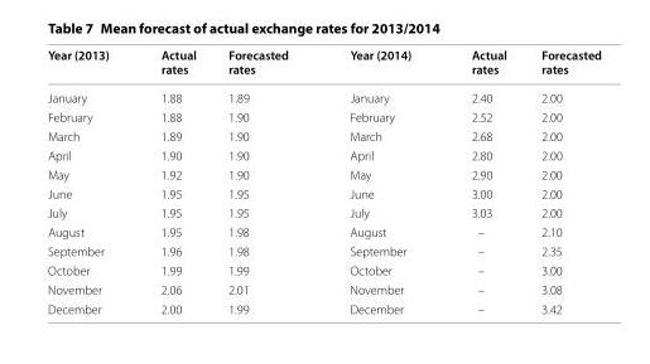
<table><thead><tr><td>Year (2013)</td><td>Actual rates</td><td>Forecasted rates</td><td>Year (2014)</td><td>Actual rates</td><td>Forecasted rates</td></tr></thead><tbody><tr><td>January</td><td>1.88</td><td>1.89</td><td>January</td><td>2.40</td><td>2.00</td></tr><tr><td>February</td><td>1.88</td><td>1.90</td><td>February</td><td>2.52</td><td>2.00</td></tr><tr><td>March</td><td>1.89</td><td>1.90</td><td>March</td><td>2.68</td><td>2.00</td></tr><tr><td>April</td><td>1.90</td><td>1.90</td><td>April</td><td>2.80</td><td>2.00</td></tr><tr><td>May</td><td>1.92</td><td>1.90</td><td>May</td><td>2.90</td><td>2.00</td></tr><tr><td>June</td><td>1.95</td><td>1.95</td><td>June</td><td>3.00</td><td>2.00</td></tr><tr><td>July</td><td>1.95</td><td>1.95</td><td>July</td><td>3.03</td><td>2.00</td></tr><tr><td>August</td><td>1.95</td><td>1.98</td><td>August</td><td>–</td><td>2.10</td></tr><tr><td>September</td><td>1.96</td><td>1.98</td><td>September</td><td>–</td><td>2.35</td></tr><tr><td>October</td><td>1.99</td><td>1.99</td><td>October</td><td>–</td><td>3.00</td></tr><tr><td>November</td><td>2.06</td><td>2.01</td><td>November</td><td>–</td><td>3.08</td></tr><tr><td>December</td><td>2.00</td><td>1.99</td><td>December</td><td>–</td><td>3.42</td></tr></tbody></table>